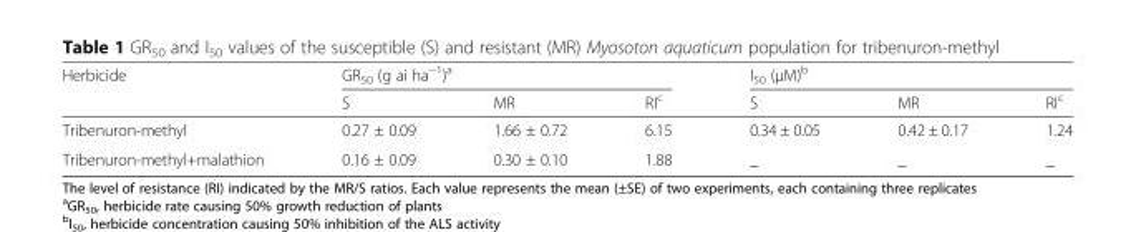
<table><thead><tr><td rowspan="2">Herbicide</td><td colspan="3">GR<sub>50</sub> (g ai ha<sup>−1</sup>)<sup>a</sup></td><td colspan="3">I<sub>50</sub> (μM)<sup>b</sup></td></tr><tr><td>S</td><td>MR</td><td>RI<sup>c</sup></td><td>S</td><td>MR</td><td>RI<sup>c</sup></td></tr></thead><tbody><tr><td>Tribenuron-methyl</td><td>0.27 ± 0.09</td><td>1.66 ± 0.72</td><td>6.15</td><td>0.34 ± 0.05</td><td>0.42 ± 0.17</td><td>1.24</td></tr><tr><td>Tribenuron-methyl+malathion</td><td>0.16 ± 0.09</td><td>0.30 ± 0.10</td><td>1.88</td><td>_</td><td>_</td><td>_</td></tr></tbody></table>